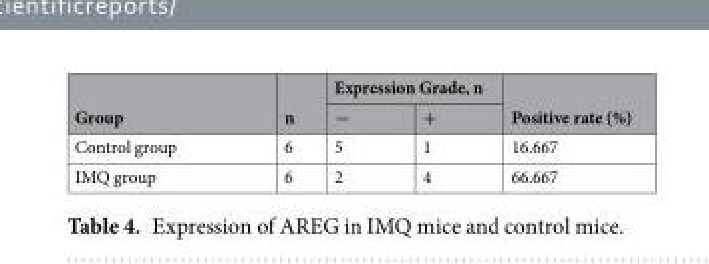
<table><thead><tr><td rowspan="2">Group</td><td rowspan="2">n</td><td colspan="2">Expression Grade, n</td><td rowspan="2">Positive rate (%)</td></tr><tr><td>−</td><td>+</td></tr></thead><tbody><tr><td>Control group</td><td>6</td><td>5</td><td>1</td><td>16.667</td></tr><tr><td>IMQ group</td><td>6</td><td>2</td><td>4</td><td>66.667</td></tr></tbody></table>